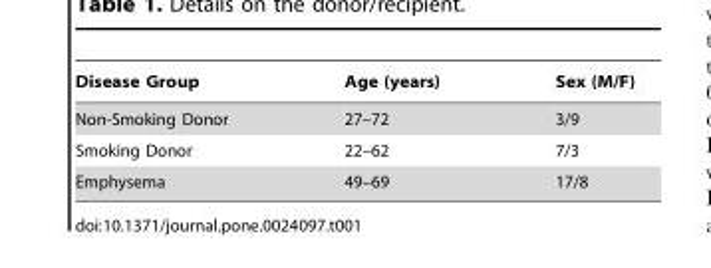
<table><thead><tr><td>Disease Group</td><td>Age (years)</td><td>Sex (M/F)</td></tr></thead><tbody><tr><td>Non-Smoking Donor</td><td>27–72</td><td>3/9</td></tr><tr><td>Smoking Donor</td><td>22–62</td><td>7/3</td></tr><tr><td>Emphysema</td><td>49–69</td><td>17/8</td></tr></tbody></table>